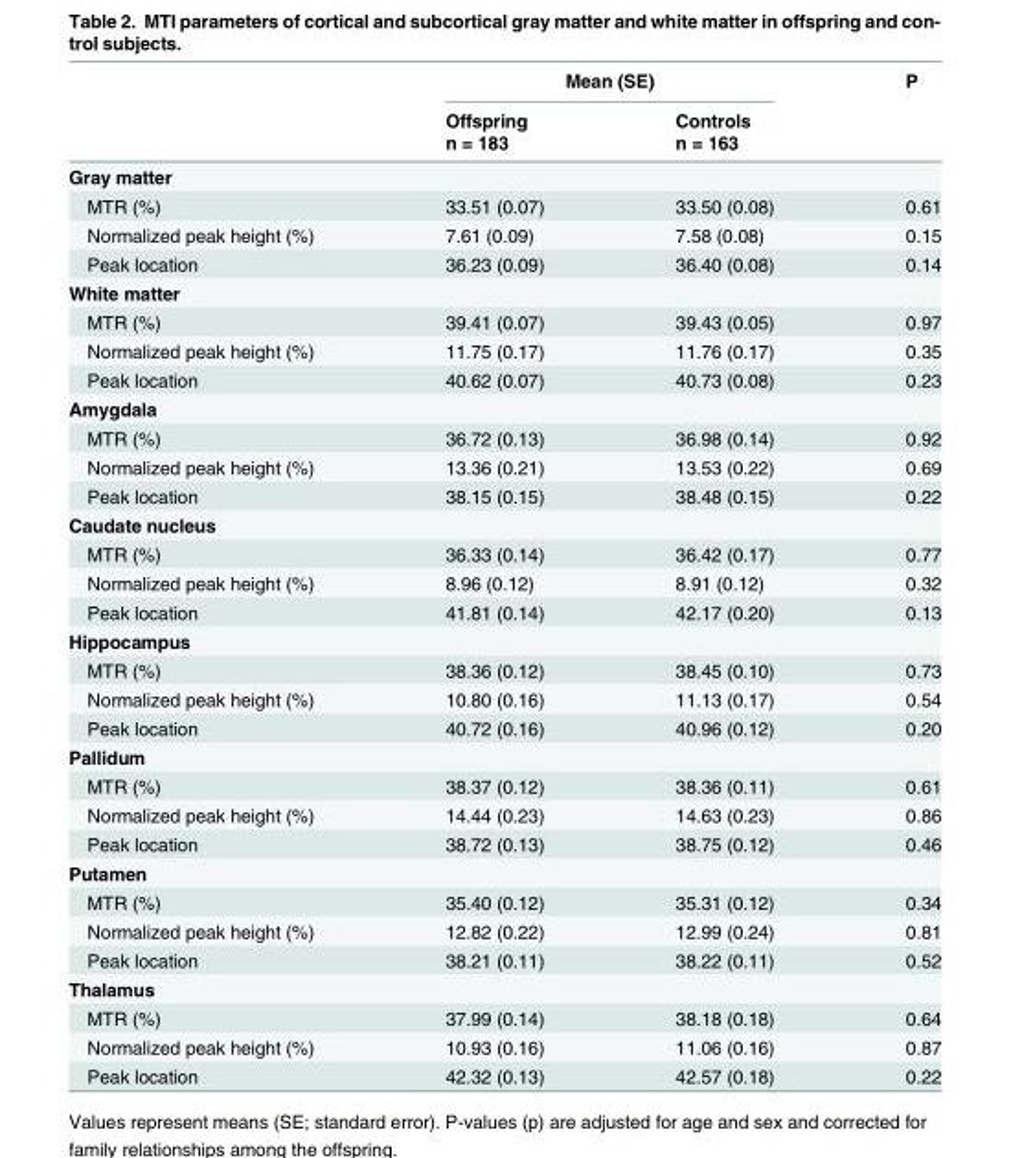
<table><thead><tr><td rowspan="3"></td><td colspan="2">Mean (SE)</td><td rowspan="3">P</td></tr><tr><td rowspan="2">Offspring n = 183</td><td rowspan="2">Controls n = 163</td></tr><tr></tr></thead><tbody><tr><td colspan="4">Gray matter</td></tr><tr><td>MTR (%)</td><td>33.51 (0.07)</td><td>33.50 (0.08)</td><td>0.61</td></tr><tr><td>Normalized peak height (%)</td><td>7.61 (0.09)</td><td>7.58 (0.08)</td><td>0.15</td></tr><tr><td>Peak location</td><td>36.23 (0.09)</td><td>36.40 (0.08)</td><td>0.14</td></tr><tr><td colspan="4">White matter</td></tr><tr><td>MTR (%)</td><td>39.41 (0.07)</td><td>39.43 (0.05)</td><td>0.97</td></tr><tr><td>Normalized peak height (%)</td><td>11.75 (0.17)</td><td>11.76 (0.17)</td><td>0.35</td></tr><tr><td>Peak location</td><td>40.62 (0.07)</td><td>40.73 (0.08)</td><td>0.23</td></tr><tr><td colspan="4">Amygdala</td></tr><tr><td>MTR (%)</td><td>36.72 (0.13)</td><td>36.98 (0.14)</td><td>0.92</td></tr><tr><td>Normalized peak height (%)</td><td>13.36 (0.21)</td><td>13.53 (0.22)</td><td>0.69</td></tr><tr><td>Peak location</td><td>38.15 (0.15)</td><td>38.48 (0.15)</td><td>0.22</td></tr><tr><td colspan="4">Caudate nucleus</td></tr><tr><td>MTR (%)</td><td>36.33 (0.14)</td><td>36.42 (0.17)</td><td>0.77</td></tr><tr><td>Normalized peak height (%)</td><td>8.96 (0.12)</td><td>8.91 (0.12)</td><td>0.32</td></tr><tr><td>Peak location</td><td>41.81 (0.14)</td><td>42.17 (0.20)</td><td>0.13</td></tr><tr><td colspan="4">Hippocampus</td></tr><tr><td>MTR (%)</td><td>38.36 (0.12)</td><td>38.45 (0.10)</td><td>0.73</td></tr><tr><td>Normalized peak height (%)</td><td>10.80 (0.16)</td><td>11.13 (0.17)</td><td>0.54</td></tr><tr><td>Peak location</td><td>40.72 (0.16)</td><td>40.96 (0.12)</td><td>0.20</td></tr><tr><td colspan="4">Pallidum</td></tr><tr><td>MTR (%)</td><td>38.37 (0.12)</td><td>38.36 (0.11)</td><td>0.61</td></tr><tr><td>Normalized peak height (%)</td><td>14.44 (0.23)</td><td>14.63 (0.23)</td><td>0.86</td></tr><tr><td>Peak location</td><td>38.72 (0.13)</td><td>38.75 (0.12)</td><td>0.46</td></tr><tr><td colspan="4">Putamen</td></tr><tr><td>MTR (%)</td><td>35.40 (0.12)</td><td>35.31 (0.12)</td><td>0.34</td></tr><tr><td>Normalized peak height (%)</td><td>12.82 (0.22)</td><td>12.99 (0.24)</td><td>0.81</td></tr><tr><td>Peak location</td><td>38.21 (0.11)</td><td>38.22 (0.11)</td><td>0.52</td></tr><tr><td colspan="4">Thalamus</td></tr><tr><td>MTR (%)</td><td>37.99 (0.14)</td><td>38.18 (0.18)</td><td>0.64</td></tr><tr><td>Normalized peak height (%)</td><td>10.93 (0.16)</td><td>11.06 (0.16)</td><td>0.87</td></tr><tr><td>Peak location</td><td>42.32 (0.13)</td><td>42.57 (0.18)</td><td>0.22</td></tr></tbody></table>